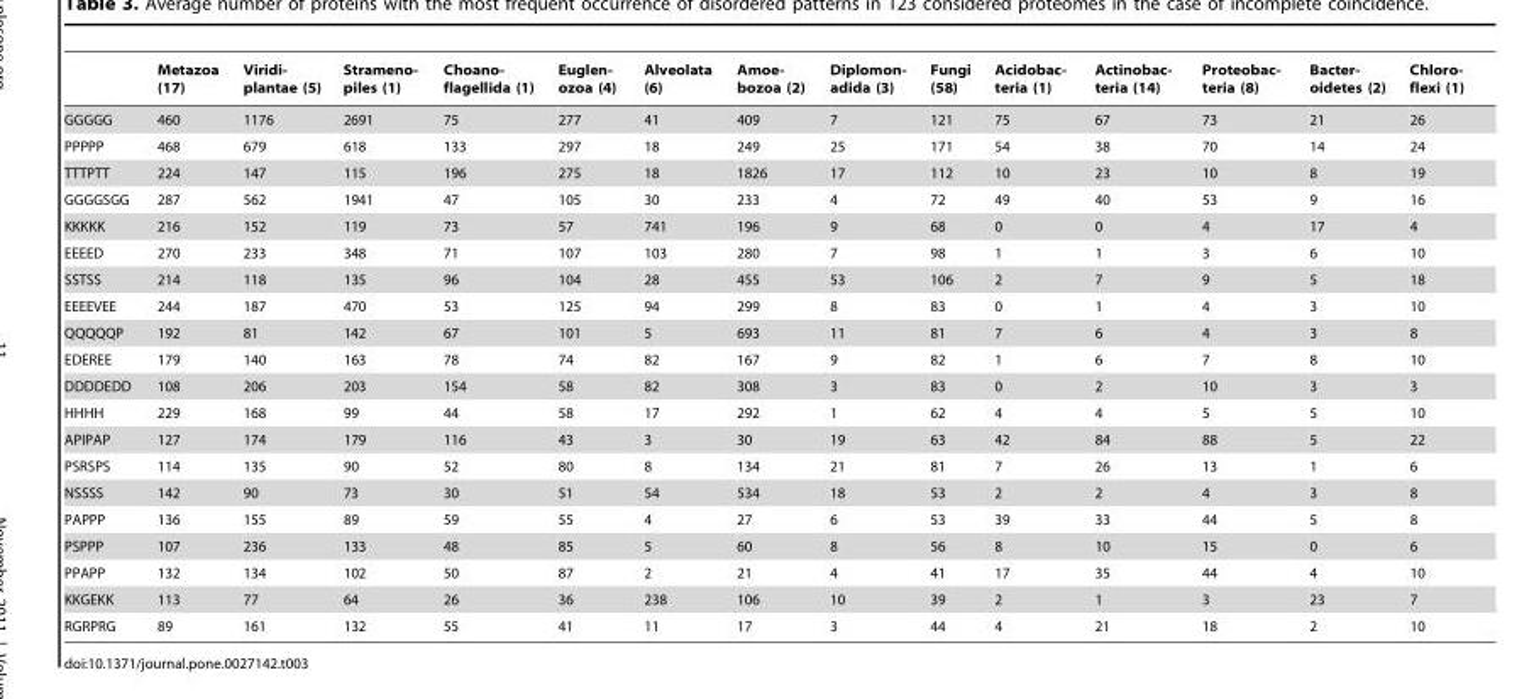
<table><thead><tr><td></td><td>Metazoa (17)</td><td>Viridi- plantae (5)</td><td>Strameno- piles (1)</td><td>Choano- flagellida (1)</td><td>Euglen- ozoa (4)</td><td>Alveolata (6)</td><td>Amoe- bozoa (2)</td><td>Diplomon- adida (3)</td><td>Fungi (58)</td><td>Acidobac- teria (1)</td><td>Actinobac- teria (14)</td><td>Proteobac- teria (8)</td><td>Bacter- oidetes (2)</td><td>Chloro- flexi (1)</td></tr></thead><tbody><tr><td>GGGGG</td><td>460</td><td>1176</td><td>2691</td><td>75</td><td>277</td><td>41</td><td>409</td><td>7</td><td>121</td><td>75</td><td>67</td><td>73</td><td>21</td><td>26</td></tr><tr><td>PPPPP</td><td>468</td><td>679</td><td>618</td><td>133</td><td>297</td><td>18</td><td>249</td><td>25</td><td>171</td><td>54</td><td>38</td><td>70</td><td>14</td><td>24</td></tr><tr><td>TTTPTT</td><td>224</td><td>147</td><td>115</td><td>196</td><td>275</td><td>18</td><td>1826</td><td>17</td><td>112</td><td>10</td><td>23</td><td>10</td><td>8</td><td>19</td></tr><tr><td>GGGGSGG</td><td>287</td><td>562</td><td>1941</td><td>47</td><td>105</td><td>30</td><td>233</td><td>4</td><td>72</td><td>49</td><td>40</td><td>53</td><td>9</td><td>16</td></tr><tr><td>KKKKK</td><td>216</td><td>152</td><td>119</td><td>73</td><td>57</td><td>741</td><td>196</td><td>9</td><td>68</td><td>0</td><td>0</td><td>4</td><td>17</td><td>4</td></tr><tr><td>EEEED</td><td>270</td><td>233</td><td>348</td><td>71</td><td>107</td><td>103</td><td>280</td><td>7</td><td>98</td><td>1</td><td>1</td><td>3</td><td>6</td><td>10</td></tr><tr><td>SSTSS</td><td>214</td><td>118</td><td>135</td><td>96</td><td>104</td><td>28</td><td>455</td><td>53</td><td>106</td><td>2</td><td>7</td><td>9</td><td>5</td><td>18</td></tr><tr><td>EEEEVEE</td><td>244</td><td>187</td><td>470</td><td>53</td><td>125</td><td>94</td><td>299</td><td>8</td><td>83</td><td>0</td><td>1</td><td>4</td><td>3</td><td>10</td></tr><tr><td>QQQQQP</td><td>192</td><td>81</td><td>142</td><td>67</td><td>101</td><td>5</td><td>693</td><td>11</td><td>81</td><td>7</td><td>6</td><td>4</td><td>3</td><td>8</td></tr><tr><td>EDEREE</td><td>179</td><td>140</td><td>163</td><td>78</td><td>74</td><td>82</td><td>167</td><td>9</td><td>82</td><td>1</td><td>6</td><td>7</td><td>8</td><td>10</td></tr><tr><td>DDDDEDD</td><td>108</td><td>206</td><td>203</td><td>154</td><td>58</td><td>82</td><td>308</td><td>3</td><td>83</td><td>0</td><td>2</td><td>10</td><td>3</td><td>3</td></tr><tr><td>HHHH</td><td>229</td><td>168</td><td>99</td><td>44</td><td>58</td><td>17</td><td>292</td><td>1</td><td>62</td><td>4</td><td>4</td><td>5</td><td>5</td><td>10</td></tr><tr><td>APIPAP</td><td>127</td><td>174</td><td>179</td><td>116</td><td>43</td><td>3</td><td>30</td><td>19</td><td>63</td><td>42</td><td>84</td><td>88</td><td>5</td><td>22</td></tr><tr><td>PSRSPS</td><td>114</td><td>135</td><td>90</td><td>52</td><td>80</td><td>8</td><td>134</td><td>21</td><td>81</td><td>7</td><td>26</td><td>13</td><td>1</td><td>6</td></tr><tr><td>NSSSS</td><td>142</td><td>90</td><td>73</td><td>30</td><td>51</td><td>54</td><td>534</td><td>18</td><td>53</td><td>2</td><td>2</td><td>4</td><td>3</td><td>8</td></tr><tr><td>PAPPP</td><td>136</td><td>155</td><td>89</td><td>59</td><td>55</td><td>4</td><td>27</td><td>6</td><td>53</td><td>39</td><td>33</td><td>44</td><td>5</td><td>8</td></tr><tr><td>PSPPP</td><td>107</td><td>236</td><td>133</td><td>48</td><td>85</td><td>5</td><td>60</td><td>8</td><td>56</td><td>8</td><td>10</td><td>15</td><td>0</td><td>6</td></tr><tr><td>PPAPP</td><td>132</td><td>134</td><td>102</td><td>50</td><td>87</td><td>2</td><td>21</td><td>4</td><td>41</td><td>17</td><td>35</td><td>44</td><td>4</td><td>10</td></tr><tr><td>KKGEKK</td><td>113</td><td>77</td><td>64</td><td>26</td><td>36</td><td>238</td><td>106</td><td>10</td><td>39</td><td>2</td><td>1</td><td>3</td><td>23</td><td>7</td></tr><tr><td>RGRPRG</td><td>89</td><td>161</td><td>132</td><td>55</td><td>41</td><td>11</td><td>17</td><td>3</td><td>44</td><td>4</td><td>21</td><td>18</td><td>2</td><td>10</td></tr></tbody></table>